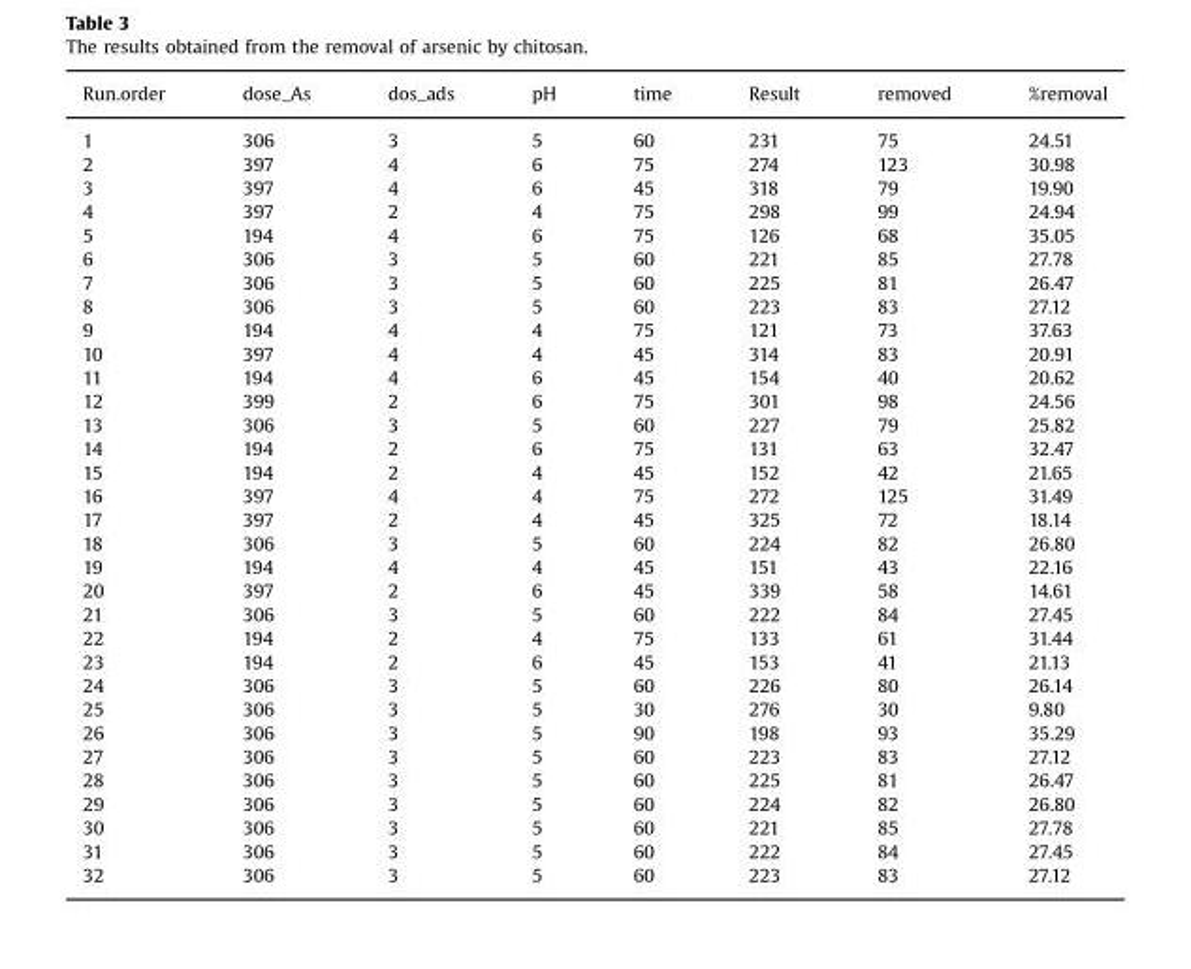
<table><thead><tr><td>Run.order</td><td>dose_As</td><td>dos_ads</td><td>pH</td><td>time</td><td>Result</td><td>removed</td><td>%removal</td></tr></thead><tbody><tr><td>1</td><td>306</td><td>3</td><td>5</td><td>60</td><td>231</td><td>75</td><td>24.51</td></tr><tr><td>2</td><td>397</td><td>4</td><td>6</td><td>75</td><td>274</td><td>123</td><td>30.98</td></tr><tr><td>3</td><td>397</td><td>4</td><td>6</td><td>45</td><td>318</td><td>79</td><td>19.90</td></tr><tr><td>4</td><td>397</td><td>2</td><td>4</td><td>75</td><td>298</td><td>99</td><td>24.94</td></tr><tr><td>5</td><td>194</td><td>4</td><td>6</td><td>75</td><td>126</td><td>68</td><td>35.05</td></tr><tr><td>6</td><td>306</td><td>3</td><td>5</td><td>60</td><td>221</td><td>85</td><td>27.78</td></tr><tr><td>7</td><td>306</td><td>3</td><td>5</td><td>60</td><td>225</td><td>81</td><td>26.47</td></tr><tr><td>8</td><td>306</td><td>3</td><td>5</td><td>60</td><td>223</td><td>83</td><td>27.12</td></tr><tr><td>9</td><td>194</td><td>4</td><td>4</td><td>75</td><td>121</td><td>73</td><td>37.63</td></tr><tr><td>10</td><td>397</td><td>4</td><td>4</td><td>45</td><td>314</td><td>83</td><td>20.91</td></tr><tr><td>11</td><td>194</td><td>4</td><td>6</td><td>45</td><td>154</td><td>40</td><td>20.62</td></tr><tr><td>12</td><td>399</td><td>2</td><td>6</td><td>75</td><td>301</td><td>98</td><td>24.56</td></tr><tr><td>13</td><td>306</td><td>3</td><td>5</td><td>60</td><td>227</td><td>79</td><td>25.82</td></tr><tr><td>14</td><td>194</td><td>2</td><td>6</td><td>75</td><td>131</td><td>63</td><td>32.47</td></tr><tr><td>15</td><td>194</td><td>2</td><td>4</td><td>45</td><td>152</td><td>42</td><td>21.65</td></tr><tr><td>16</td><td>397</td><td>4</td><td>4</td><td>75</td><td>272</td><td>125</td><td>31.49</td></tr><tr><td>17</td><td>397</td><td>2</td><td>4</td><td>45</td><td>325</td><td>72</td><td>18.14</td></tr><tr><td>18</td><td>306</td><td>3</td><td>5</td><td>60</td><td>224</td><td>82</td><td>26.80</td></tr><tr><td>19</td><td>194</td><td>4</td><td>4</td><td>45</td><td>151</td><td>43</td><td>22.16</td></tr><tr><td>20</td><td>397</td><td>2</td><td>6</td><td>45</td><td>339</td><td>58</td><td>14.61</td></tr><tr><td>21</td><td>306</td><td>3</td><td>5</td><td>60</td><td>222</td><td>84</td><td>27.45</td></tr><tr><td>22</td><td>194</td><td>2</td><td>4</td><td>75</td><td>133</td><td>61</td><td>31.44</td></tr><tr><td>23</td><td>194</td><td>2</td><td>6</td><td>45</td><td>153</td><td>41</td><td>21.13</td></tr><tr><td>24</td><td>306</td><td>3</td><td>5</td><td>60</td><td>226</td><td>80</td><td>26.14</td></tr><tr><td>25</td><td>306</td><td>3</td><td>5</td><td>30</td><td>276</td><td>30</td><td>9.80</td></tr><tr><td>26</td><td>306</td><td>3</td><td>5</td><td>90</td><td>198</td><td>93</td><td>35.29</td></tr><tr><td>27</td><td>306</td><td>3</td><td>5</td><td>60</td><td>223</td><td>83</td><td>27.12</td></tr><tr><td>28</td><td>306</td><td>3</td><td>5</td><td>60</td><td>225</td><td>81</td><td>26.47</td></tr><tr><td>29</td><td>306</td><td>3</td><td>5</td><td>60</td><td>224</td><td>82</td><td>26.80</td></tr><tr><td>30</td><td>306</td><td>3</td><td>5</td><td>60</td><td>221</td><td>85</td><td>27.78</td></tr><tr><td>31</td><td>306</td><td>3</td><td>5</td><td>60</td><td>222</td><td>84</td><td>27.45</td></tr><tr><td>32</td><td>306</td><td>3</td><td>5</td><td>60</td><td>223</td><td>83</td><td>27.12</td></tr></tbody></table>